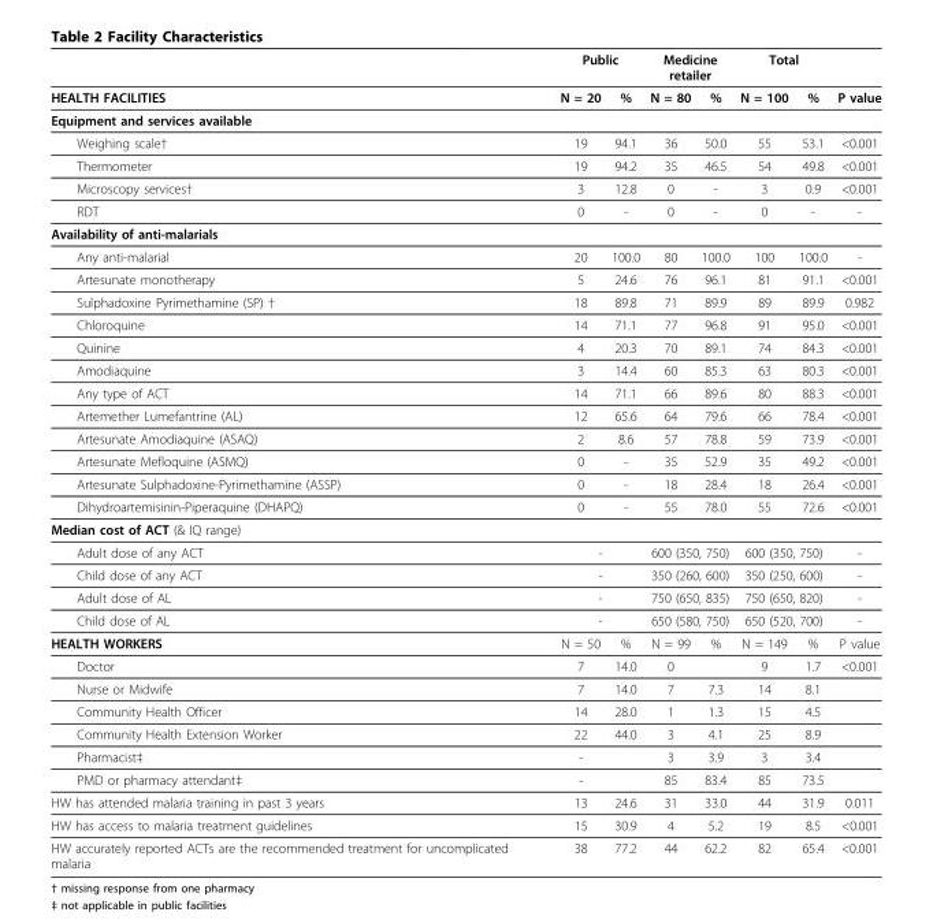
<table><thead><tr><td rowspan="2">HEALTH FACILITIES</td><td colspan="2">Public</td><td colspan="2">Medicine retailer</td><td colspan="2">Total</td><td rowspan="2">P value</td></tr><tr><td>N = 20</td><td>%</td><td>N = 80</td><td>%</td><td>N = 100</td><td>%</td></tr></thead><tbody><tr><td colspan="8">Equipment and services available</td></tr><tr><td>Weighing scale†</td><td>19</td><td>94.1</td><td>36</td><td>50.0</td><td>55</td><td>53.1</td><td>&lt;0.001</td></tr><tr><td>Thermometer</td><td>19</td><td>94.2</td><td>35</td><td>46.5</td><td>54</td><td>49.8</td><td>&lt;0.001</td></tr><tr><td>Microscopy services†</td><td>3</td><td>12.8</td><td>0</td><td>-</td><td>3</td><td>0.9</td><td>&lt;0.001</td></tr><tr><td>RDT</td><td>0</td><td>-</td><td>0</td><td>-</td><td>0</td><td>-</td><td>-</td></tr><tr><td colspan="8">Availability of anti-malarials</td></tr><tr><td>Any anti-malarial</td><td>20</td><td>100.0</td><td>80</td><td>100.0</td><td>100</td><td>100.0</td><td>-</td></tr><tr><td>Artesunate monotherapy</td><td>5</td><td>24.6</td><td>76</td><td>96.1</td><td>81</td><td>91.1</td><td>&lt;0.001</td></tr><tr><td>Sulphadoxine Pyrimethamine (SP) †</td><td>18</td><td>89.8</td><td>71</td><td>89.9</td><td>89</td><td>89.9</td><td>0.982</td></tr><tr><td>Chloroquine</td><td>14</td><td>71.1</td><td>77</td><td>96.8</td><td>91</td><td>95.0</td><td>&lt;0.001</td></tr><tr><td>Quinine</td><td>4</td><td>20.3</td><td>70</td><td>89.1</td><td>74</td><td>84.3</td><td>&lt;0.001</td></tr><tr><td>Amodiaquine</td><td>3</td><td>14.4</td><td>60</td><td>85.3</td><td>63</td><td>80.3</td><td>&lt;0.001</td></tr><tr><td>Any type of ACT</td><td>14</td><td>71.1</td><td>66</td><td>89.6</td><td>80</td><td>88.3</td><td>&lt;0.001</td></tr><tr><td>Artemether Lumefantrine (AL)</td><td>12</td><td>65.6</td><td>64</td><td>79.6</td><td>66</td><td>78.4</td><td>&lt;0.001</td></tr><tr><td>Artesunate Amodiaquine (ASAQ)</td><td>2</td><td>8.6</td><td>57</td><td>78.8</td><td>59</td><td>73.9</td><td>&lt;0.001</td></tr><tr><td>Artesunate Mefloquine (ASMQ)</td><td>0</td><td>-</td><td>35</td><td>52.9</td><td>35</td><td>49.2</td><td>&lt;0.001</td></tr><tr><td>Artesunate Sulphadoxine-Pyrimethamine (ASSP)</td><td>0</td><td>-</td><td>18</td><td>28.4</td><td>18</td><td>26.4</td><td>&lt;0.001</td></tr><tr><td>Dihydroartemisinin-Piperaquine (DHAPQ)</td><td>0</td><td>-</td><td>55</td><td>78.0</td><td>55</td><td>72.6</td><td>&lt;0.001</td></tr><tr><td colspan="8">Median cost of ACT (&amp; IQ range)</td></tr><tr><td>Adult dose of any ACT</td><td colspan="2">-</td><td colspan="2">600 (350, 750)</td><td colspan="2">600 (350, 750)</td><td>-</td></tr><tr><td>Child dose of any ACT</td><td colspan="2">-</td><td colspan="2">350 (260, 600)</td><td colspan="2">350 (250, 600)</td><td>-</td></tr><tr><td>Adult dose of AL</td><td colspan="2">-</td><td colspan="2">750 (650, 835)</td><td colspan="2">750 (650, 820)</td><td>-</td></tr><tr><td>Child dose of AL</td><td colspan="2">-</td><td colspan="2">650 (580, 750)</td><td colspan="2">650 (520, 700)</td><td>-</td></tr><tr><td>HEALTH WORKERS</td><td>N = 50</td><td>%</td><td>N = 99</td><td>%</td><td>N = 149</td><td>%</td><td>P value</td></tr><tr><td>Doctor</td><td>7</td><td>14.0</td><td>0</td><td></td><td>9</td><td>1.7</td><td>&lt;0.001</td></tr><tr><td>Nurse or Midwife</td><td>7</td><td>14.0</td><td>7</td><td>7.3</td><td>14</td><td>8.1</td><td></td></tr><tr><td>Community Health Officer</td><td>14</td><td>28.0</td><td>1</td><td>1.3</td><td>15</td><td>4.5</td><td></td></tr><tr><td>Community Health Extension Worker</td><td>22</td><td>44.0</td><td>3</td><td>4.1</td><td>25</td><td>8.9</td><td></td></tr><tr><td>Pharmacist‡</td><td>-</td><td></td><td>3</td><td>3.9</td><td>3</td><td>3.4</td><td></td></tr><tr><td>PMD or pharmacy attendant‡</td><td>-</td><td></td><td>85</td><td>83.4</td><td>85</td><td>73.5</td><td></td></tr><tr><td>HW has attended malaria training in past 3 years</td><td>13</td><td>24.6</td><td>31</td><td>33.0</td><td>44</td><td>31.9</td><td>0.011</td></tr><tr><td>HW has access to malaria treatment guidelines</td><td>15</td><td>30.9</td><td>4</td><td>5.2</td><td>19</td><td>8.5</td><td>&lt;0.001</td></tr><tr><td>HW accurately reported ACTs are the recommended treatment for uncomplicated malaria</td><td>38</td><td>77.2</td><td>44</td><td>62.2</td><td>82</td><td>65.4</td><td>&lt;0.001</td></tr></tbody></table>